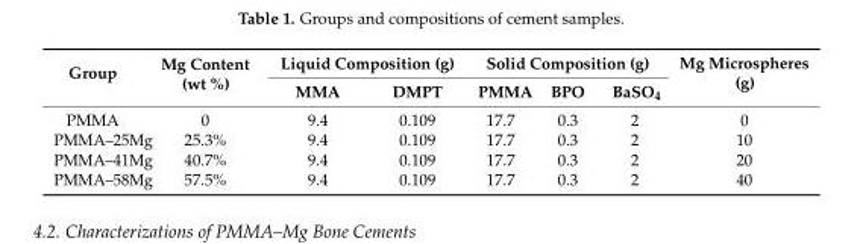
<table><thead><tr><td rowspan="2">Group</td><td rowspan="2">Mg Content (wt %)</td><td colspan="2">Liquid Composition (g)</td><td colspan="3">Solid Composition (g)</td><td rowspan="2">Mg Microspheres (g)</td></tr><tr><td>MMA</td><td>DMPT</td><td>PMMA</td><td>BPO</td><td>BaSO<sub>4</sub></td></tr></thead><tbody><tr><td>PMMA</td><td>0</td><td>9.4</td><td>0.109</td><td>17.7</td><td>0.3</td><td>2</td><td>0</td></tr><tr><td>PMMA–25Mg</td><td>25.3%</td><td>9.4</td><td>0.109</td><td>17.7</td><td>0.3</td><td>2</td><td>10</td></tr><tr><td>PMMA–41Mg</td><td>40.7%</td><td>9.4</td><td>0.109</td><td>17.7</td><td>0.3</td><td>2</td><td>20</td></tr><tr><td>PMMA–58Mg</td><td>57.5%</td><td>9.4</td><td>0.109</td><td>17.7</td><td>0.3</td><td>2</td><td>40</td></tr></tbody></table>